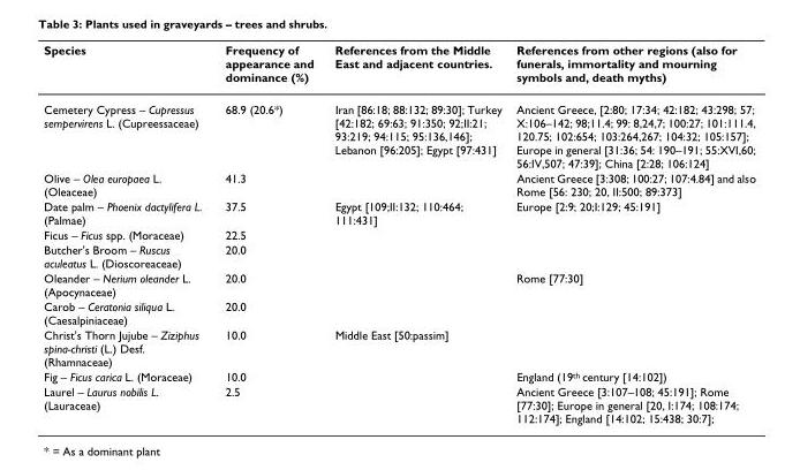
<table><thead><tr><td>Species</td><td>Frequency of appearance and dominance (%)</td><td>References from the Middle East and adjacent countries.</td><td>References from other regions (also for funerals, immortality and mourning symbols and, death myths)</td></tr></thead><tbody><tr><td>Cemetery Cypress – Cupressus sempervirens L. (Cupreessaceae)</td><td>68.9 (20.6*)</td><td>Iran [86:18; 88:132; 89:30]; Turkey [42:182; 69:63; 91:350; 92;II:21; 93:219; 94:115; 95:136,146]; Lebanon [96:205]; Egypt [97:431]</td><td>Ancient Greece, [2:80; 17:34; 42:182; 43:298; 57; X:106–142; 98;11.4; 99: 8,24,7; 100:27; 101:111.4, 120.75; 102:654; 103:264,267; 104:32; 105:157]; Europe in general [31:36; 54: 190–191; 55:XVI,60; 56:IV,507; 47:39]; China [2:28; 106:124]</td></tr><tr><td>Olive – Olea europaea L. (Oleaceae)</td><td>41.3</td><td></td><td>Ancient Greece [3:308; 100:27; 107:4.84] and also Rome [56: 230; 20, II:500; 89:373]</td></tr><tr><td>Date palm – Phoenix dactylifera L. (Palmae)</td><td>37.5</td><td>Egypt [109;II:132; 110:464; 111:431]</td><td>Europe [2:9; 20;I:129; 45:191]</td></tr><tr><td>Ficus – Ficus spp. (Moraceae)</td><td>22.5</td><td></td><td></td></tr><tr><td>Butcher&#x27;s Broom – Ruscus aculeatus L. (Dioscoreaceae)</td><td>20.0</td><td></td><td></td></tr><tr><td>Oleander – Nerium oleander L. (Apocynaceae)</td><td>20.0</td><td></td><td>Rome [77:30]</td></tr><tr><td>Carob – Ceratonia siliqua L. (Caesalpiniaceae)</td><td>20.0</td><td></td><td></td></tr><tr><td>Christ&#x27;s Thorn Jujube – Ziziphus spina-christi (L.) Desf. (Rhamnaceae)</td><td>10.0</td><td>Middle East [50:passim]</td><td></td></tr><tr><td>Fig – Ficus carica L. (Moraceae)</td><td>10.0</td><td></td><td>England (19<sup>th</sup> century [14:102])</td></tr><tr><td>Laurel – Laurus nobilis L. (Lauraceae)</td><td>2.5</td><td></td><td>Ancient Greece [3:107–108; 45:191]; Rome [77:30]; Europe in general [20, I:174; 108:174; 112:174]; England [14:102; 15:438; 30:7];</td></tr></tbody></table>